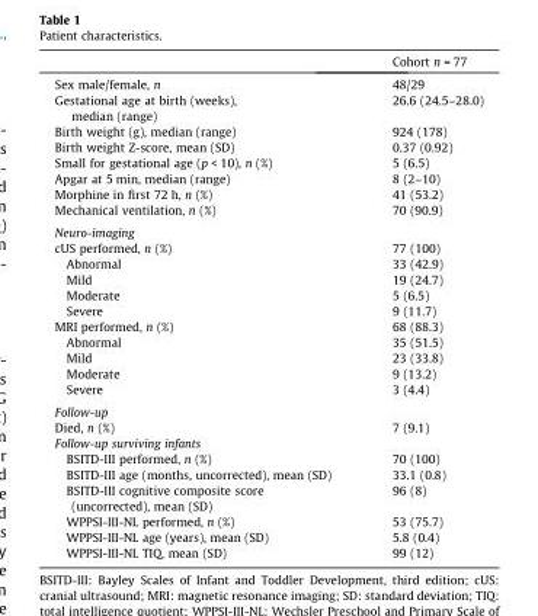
<table><thead><tr><td></td><td>Cohort n = 77</td></tr></thead><tbody><tr><td>Sex male/female, n</td><td>48/29</td></tr><tr><td>Gestational age at birth (weeks), median (range)</td><td>26.6 (24.5–28.0)</td></tr><tr><td>Birth weight (g), median (range)</td><td>924 (178)</td></tr><tr><td>Birth weight Z-score, mean (SD)</td><td>0.37 (0.92)</td></tr><tr><td>Small for gestational age (p &lt; 10), n (%)</td><td>5 (6.5)</td></tr><tr><td>Apgar at 5 min, median (range)</td><td>8 (2–10)</td></tr><tr><td>Morphine in first 72 h, n (%)</td><td>41 (53.2)</td></tr><tr><td>Mechanical ventilation, n (%)</td><td>70 (90.9)</td></tr><tr><td colspan="2">Neuro-imaging</td></tr><tr><td>cUS performed, n (%)</td><td>77 (100)</td></tr><tr><td>Abnormal</td><td>33 (42.9)</td></tr><tr><td>Mild</td><td>19 (24.7)</td></tr><tr><td>Moderate</td><td>5 (6.5)</td></tr><tr><td>Severe</td><td>9 (11.7)</td></tr><tr><td>MRI performed, n (%)</td><td>68 (88.3)</td></tr><tr><td>Abnormal</td><td>35 (51.5)</td></tr><tr><td>Mild</td><td>23 (33.8)</td></tr><tr><td>Moderate</td><td>9 (13.2)</td></tr><tr><td>Severe</td><td>3 (4.4)</td></tr><tr><td colspan="2">Follow-up</td></tr><tr><td>Died, n (%)</td><td>7 (9.1)</td></tr><tr><td colspan="2">Follow-up surviving infants</td></tr><tr><td>BSITD-III performed, n (%)</td><td>70 (100)</td></tr><tr><td>BSITD-III age (months, uncorrected), mean (SD)</td><td>33.1 (0.8)</td></tr><tr><td>BSITD-III cognitive composite score (uncorrected), mean (SD)</td><td>96 (8)</td></tr><tr><td>WPPSI-III-NL performed, n (%)</td><td>53 (75.7)</td></tr><tr><td>WPPSI-III-NL age (years), mean (SD)</td><td>5.8 (0.4)</td></tr><tr><td>WPPSI-III-NL TIQ, mean (SD)</td><td>99 (12)</td></tr></tbody></table>